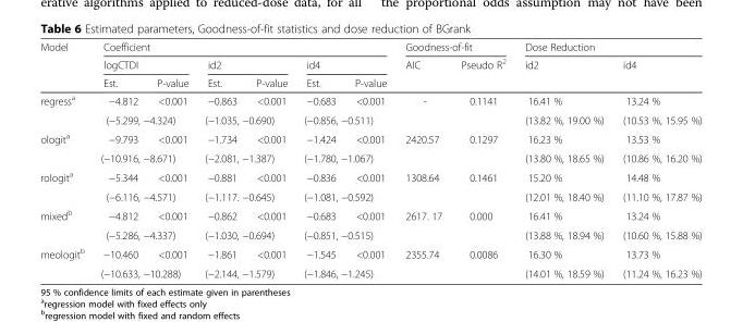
<table><thead><tr><td rowspan="3">Model</td><td colspan="6">Coefficient</td><td colspan="2">Goodness-of-fit</td><td colspan="2">Dose Reduction</td></tr><tr><td colspan="2">logCTDI</td><td colspan="2">id2</td><td colspan="2">id4</td><td rowspan="2">AIC</td><td rowspan="2">Pseudo R<sup>2</sup></td><td rowspan="2">id2</td><td rowspan="2">id4</td></tr><tr><td>Est.</td><td>P-value</td><td>Est.</td><td>P-value</td><td>Est.</td><td>P-value</td></tr></thead><tbody><tr><td rowspan="2">regress<sup>a</sup></td><td>−4.812</td><td>&lt;0.001</td><td>−0.863</td><td>&lt;0.001</td><td>−0.683</td><td>&lt;0.001</td><td rowspan="2">-</td><td rowspan="2">0.1141</td><td>16.41 %</td><td>13.24 %</td></tr><tr><td colspan="2">(−5.299, −4.324)</td><td colspan="2">(−1.035, −0.690)</td><td colspan="2">(−0.856, −0.511)</td><td>(13.82 %, 19.00 %)</td><td>(10.53 %, 15.95 %)</td></tr><tr><td rowspan="2">ologit<sup>a</sup></td><td>−9.793</td><td>&lt;0.001</td><td>−1.734</td><td>&lt;0.001</td><td>−1.424</td><td>&lt;0.001</td><td rowspan="2">2420.57</td><td rowspan="2">0.1297</td><td>16.23 %</td><td>13.53 %</td></tr><tr><td colspan="2">(−10.916, −8.671)</td><td colspan="2">(−2.081, −1.387)</td><td colspan="2">(−1.780, −1.067)</td><td>(13.80 %, 18.65 %)</td><td>(10.86 %, 16.20 %)</td></tr><tr><td rowspan="2">rologit<sup>a</sup></td><td>−5.344</td><td>&lt;0.001</td><td>−0.881</td><td>&lt;0.001</td><td>−0.836</td><td>&lt;0.001</td><td rowspan="2">1308.64</td><td rowspan="2">0.1461</td><td>15.20 %</td><td>14.48 %</td></tr><tr><td colspan="2">(−6.116, −4.571)</td><td colspan="2">(−1.117. −0.645)</td><td colspan="2">(−1.081, −0.592)</td><td>(12.01 %, 18.40 %)</td><td>(11.10 %, 17.87 %)</td></tr><tr><td rowspan="2">mixed<sup>b</sup></td><td>−4.812</td><td>&lt;0.001</td><td>−0.862</td><td>&lt;0.001</td><td>−0.683</td><td>&lt;0.001</td><td rowspan="2">2617. 17</td><td rowspan="2">0.000</td><td>16.41 %</td><td>13.24 %</td></tr><tr><td colspan="2">(−5.286, −4.337)</td><td colspan="2">(−1.030, −0.694)</td><td colspan="2">(−0.851, −0.515)</td><td>(13.88 %, 18.94 %)</td><td>(10.60 %, 15.88 %)</td></tr><tr><td rowspan="2">meologit<sup>b</sup></td><td>−10.460</td><td>&lt;0.001</td><td>−1.861</td><td>&lt;0.001</td><td>−1.545</td><td>&lt;0.001</td><td rowspan="2">2355.74</td><td rowspan="2">0.0086</td><td>16.30 %</td><td>13.73 %</td></tr><tr><td colspan="2">(−10.633, −10.288)</td><td colspan="2">(−2.144, −1.579)</td><td colspan="2">(−1.846, −1.245)</td><td>(14.01 %, 18.59 %)</td><td>(11.24 %, 16.23 %)</td></tr></tbody></table>